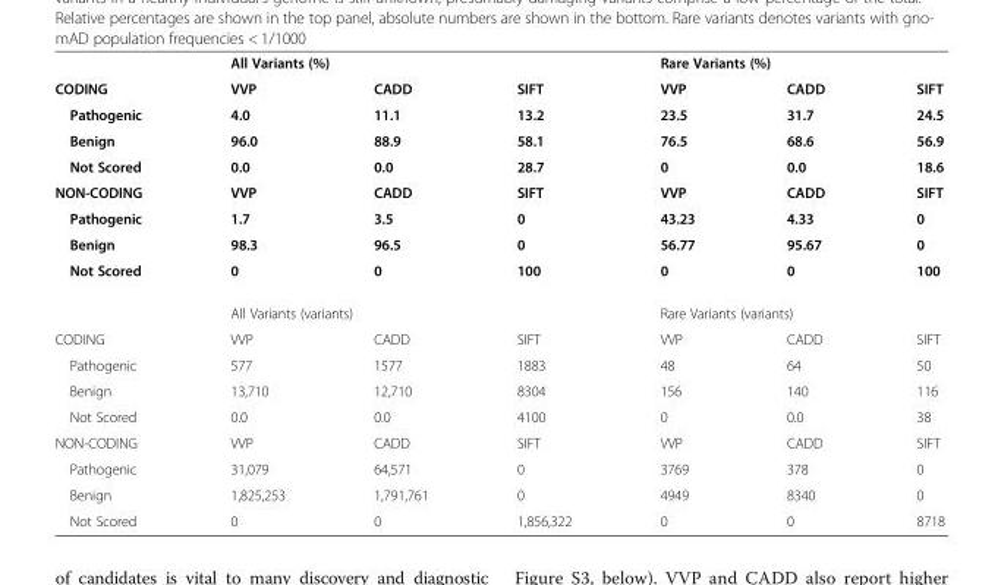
<table><thead><tr><td rowspan="2">CODING</td><td colspan="3">All Variants (%)</td><td colspan="3">Rare Variants (%)</td></tr><tr><td>VVP</td><td>CADD</td><td>SIFT</td><td>VVP</td><td>CADD</td><td>SIFT</td></tr></thead><tbody><tr><td>Pathogenic</td><td>4.0</td><td>11.1</td><td>13.2</td><td>23.5</td><td>31.7</td><td>24.5</td></tr><tr><td>Benign</td><td>96.0</td><td>88.9</td><td>58.1</td><td>76.5</td><td>68.6</td><td>56.9</td></tr><tr><td>Not Scored</td><td>0.0</td><td>0.0</td><td>28.7</td><td>0</td><td>0.0</td><td>18.6</td></tr><tr><td>NON-CODING</td><td>VVP</td><td>CADD</td><td>SIFT</td><td>VVP</td><td>CADD</td><td>SIFT</td></tr><tr><td>Pathogenic</td><td>1.7</td><td>3.5</td><td>0</td><td>43.23</td><td>4.33</td><td>0</td></tr><tr><td>Benign</td><td>98.3</td><td>96.5</td><td>0</td><td>56.77</td><td>95.67</td><td>0</td></tr><tr><td rowspan="2">Not Scored</td><td>0</td><td>0</td><td>100</td><td>0</td><td>0</td><td>100</td></tr><tr><td colspan="3">All Variants (variants)</td><td colspan="3">Rare Variants (variants)</td></tr><tr><td>CODING</td><td>VVP</td><td>CADD</td><td>SIFT</td><td>VVP</td><td>CADD</td><td>SIFT</td></tr><tr><td>Pathogenic</td><td>577</td><td>1577</td><td>1883</td><td>48</td><td>64</td><td>50</td></tr><tr><td>Benign</td><td>13,710</td><td>12,710</td><td>8304</td><td>156</td><td>140</td><td>116</td></tr><tr><td>Not Scored</td><td>0.0</td><td>0.0</td><td>4100</td><td>0</td><td>0.0</td><td>38</td></tr><tr><td>NON-CODING</td><td>VVP</td><td>CADD</td><td>SIFT</td><td>VVP</td><td>CADD</td><td>SIFT</td></tr><tr><td>Pathogenic</td><td>31,079</td><td>64,571</td><td>0</td><td>3769</td><td>378</td><td>0</td></tr><tr><td>Benign</td><td>1,825,253</td><td>1,791,761</td><td>0</td><td>4949</td><td>8340</td><td>0</td></tr><tr><td>Not Scored</td><td>0</td><td>0</td><td>1,856,322</td><td>0</td><td>0</td><td>8718</td></tr></tbody></table>